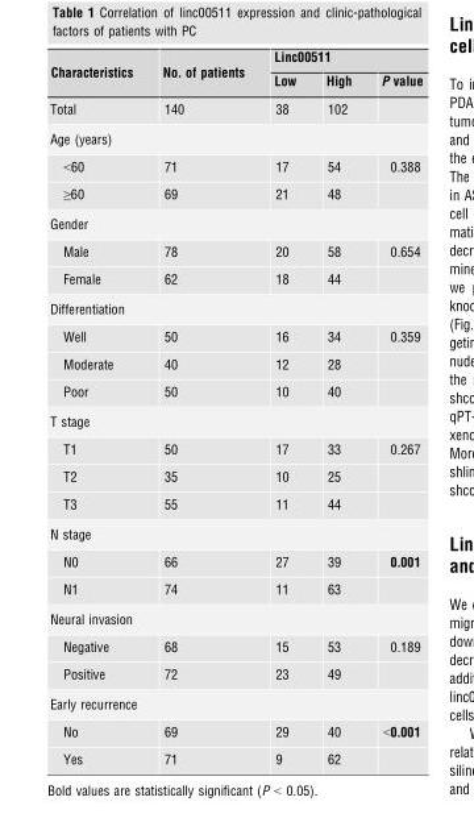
<table><thead><tr><td rowspan="2">Characteristics</td><td rowspan="2">No. of patients</td><td colspan="3">Linc00511</td></tr><tr><td>Low</td><td>High</td><td>P value</td></tr></thead><tbody><tr><td>Total</td><td>140</td><td>38</td><td>102</td><td></td></tr><tr><td colspan="5">Age (years)</td></tr><tr><td>&lt;60</td><td>71</td><td>17</td><td>54</td><td>0.388</td></tr><tr><td>≥60</td><td>69</td><td>21</td><td>48</td><td></td></tr><tr><td colspan="5">Gender</td></tr><tr><td>Male</td><td>78</td><td>20</td><td>58</td><td>0.654</td></tr><tr><td>Female</td><td>62</td><td>18</td><td>44</td><td></td></tr><tr><td colspan="5">Differentiation</td></tr><tr><td>Well</td><td>50</td><td>16</td><td>34</td><td>0.359</td></tr><tr><td>Moderate</td><td>40</td><td>12</td><td>28</td><td></td></tr><tr><td>Poor</td><td>50</td><td>10</td><td>40</td><td></td></tr><tr><td colspan="5">T stage</td></tr><tr><td>T1</td><td>50</td><td>17</td><td>33</td><td>0.267</td></tr><tr><td>T2</td><td>35</td><td>10</td><td>25</td><td></td></tr><tr><td>T3</td><td>55</td><td>11</td><td>44</td><td></td></tr><tr><td colspan="5">N stage</td></tr><tr><td>N0</td><td>66</td><td>27</td><td>39</td><td>0.001</td></tr><tr><td>N1</td><td>74</td><td>11</td><td>63</td><td></td></tr><tr><td colspan="5">Neural invasion</td></tr><tr><td>Negative</td><td>68</td><td>15</td><td>53</td><td>0.189</td></tr><tr><td>Positive</td><td>72</td><td>23</td><td>49</td><td></td></tr><tr><td colspan="5">Early recurrence</td></tr><tr><td>No</td><td>69</td><td>29</td><td>40</td><td>&lt;0.001</td></tr><tr><td>Yes</td><td>71</td><td>9</td><td>62</td><td></td></tr></tbody></table>